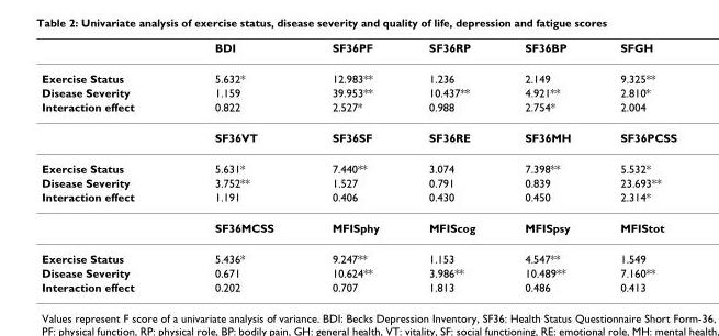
<table><thead><tr><td></td><td>BDI</td><td>SF36PF</td><td>SF36RP</td><td>SF36BP</td><td>SFGH</td></tr></thead><tbody><tr><td>Exercise Status</td><td>5.632*</td><td>12.983**</td><td>1.236</td><td>2.149</td><td>9.325**</td></tr><tr><td>Disease Severity</td><td>1.159</td><td>39.953**</td><td>10.437**</td><td>4.921**</td><td>2.810*</td></tr><tr><td rowspan="2">Interaction effect</td><td>0.822</td><td>2.527*</td><td>0.988</td><td>2.754*</td><td>2.004</td></tr><tr><td>SF36VT</td><td>SF36SF</td><td>SF36RE</td><td>SF36MH</td><td>SF36PCSS</td></tr><tr><td>Exercise Status</td><td>5.631*</td><td>7.440**</td><td>3.074</td><td>7.398**</td><td>5.532*</td></tr><tr><td>Disease Severity</td><td>3.752**</td><td>1.527</td><td>0.791</td><td>0.839</td><td>23.693**</td></tr><tr><td rowspan="2">Interaction effect</td><td>1.191</td><td>0.406</td><td>0.430</td><td>0.450</td><td>2.314*</td></tr><tr><td>SF36MCSS</td><td>MFISphy</td><td>MFIScog</td><td>MFISpsy</td><td>MFIStot</td></tr><tr><td>Exercise Status</td><td>5.436*</td><td>9.247**</td><td>1.153</td><td>4.547**</td><td>1.549</td></tr><tr><td>Disease Severity</td><td>0.671</td><td>10.624**</td><td>3.986**</td><td>10.489**</td><td>7.160**</td></tr><tr><td>Interaction effect</td><td>0.202</td><td>0.707</td><td>1.813</td><td>0.486</td><td>0.413</td></tr></tbody></table>